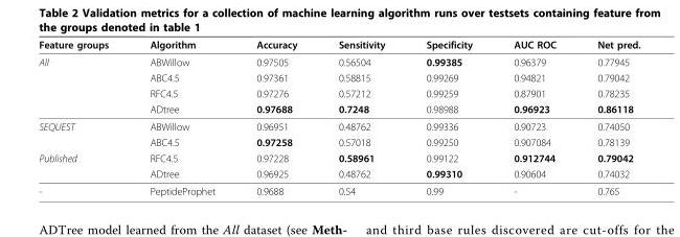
<table><thead><tr><td>Feature groups</td><td>Algorithm</td><td>Accuracy</td><td>Sensitivity</td><td>Specificity</td><td>AUC ROC</td><td>Net pred.</td></tr></thead><tbody><tr><td rowspan="4">All</td><td>ABWillow</td><td>0.97505</td><td>0.56504</td><td>0.99385</td><td>0.96379</td><td>0.77945</td></tr><tr><td>ABC4.5</td><td>0.97361</td><td>0.58815</td><td>0.99269</td><td>0.94821</td><td>0.79042</td></tr><tr><td>RFC4.5</td><td>0.97276</td><td>0.57212</td><td>0.99259</td><td>0.87901</td><td>0.78235</td></tr><tr><td>ADtree</td><td>0.97688</td><td>0.7248</td><td>0.98988</td><td>0.96923</td><td>0.86118</td></tr><tr><td rowspan="2">SEQUEST</td><td>ABWillow</td><td>0.96951</td><td>0.48762</td><td>0.99336</td><td>0.90723</td><td>0.74050</td></tr><tr><td>ABC4.5</td><td>0.97258</td><td>0.57018</td><td>0.99250</td><td>0.907084</td><td>0.78139</td></tr><tr><td rowspan="2">Published</td><td>RFC4.5</td><td>0.97228</td><td>0.58961</td><td>0.99122</td><td>0.912744</td><td>0.79042</td></tr><tr><td>ADtree</td><td>0.96925</td><td>0.48762</td><td>0.99310</td><td>0.90604</td><td>0.74032</td></tr><tr><td>-</td><td>PeptideProphet</td><td>0.9688</td><td>0.54</td><td>0.99</td><td>-</td><td>0.765</td></tr></tbody></table>